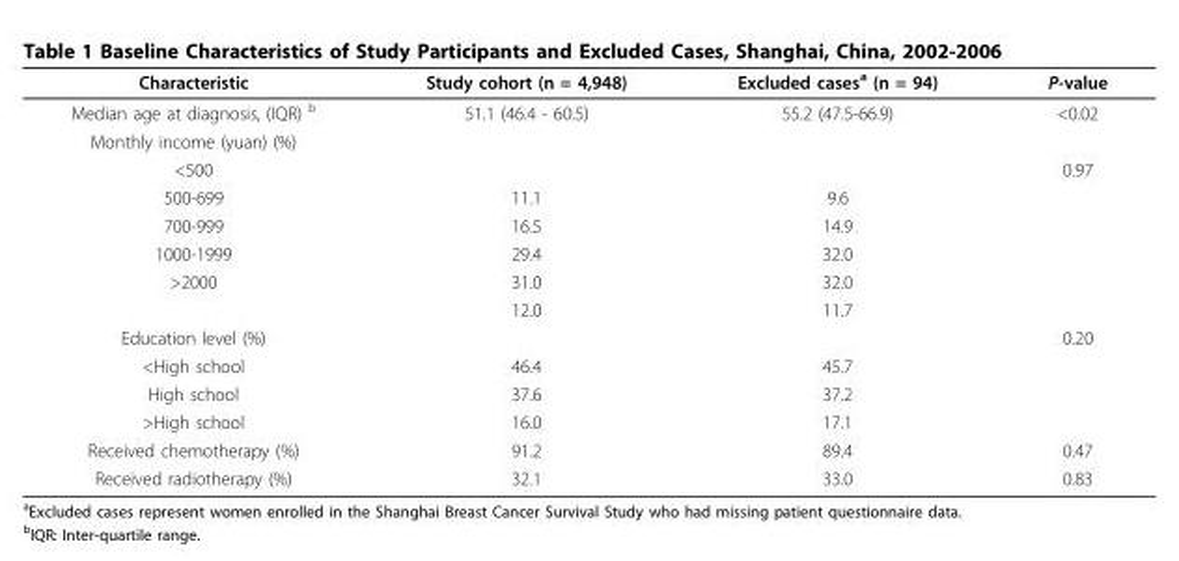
<table><thead><tr><td>Characteristic</td><td>Study cohort (n = 4,948)</td><td>Excluded cases<sup>a</sup> (n = 94)</td><td>P-value</td></tr></thead><tbody><tr><td>Median age at diagnosis, (IQR) <sup>b</sup></td><td>51.1 (46.4 - 60.5)</td><td>55.2 (47.5-66.9)</td><td>&lt;0.02</td></tr><tr><td colspan="4">Monthly income (yuan) (%)</td></tr><tr><td>&lt;500</td><td></td><td></td><td>0.97</td></tr><tr><td>500-699</td><td>11.1</td><td>9.6</td><td></td></tr><tr><td>700-999</td><td>16.5</td><td>14.9</td><td></td></tr><tr><td>1000-1999</td><td>29.4</td><td>32.0</td><td></td></tr><tr><td rowspan="2">&gt;2000</td><td>31.0</td><td>32.0</td><td></td></tr><tr><td>12.0</td><td>11.7</td><td></td></tr><tr><td>Education level (%)</td><td></td><td></td><td>0.20</td></tr><tr><td>&lt;High school</td><td>46.4</td><td>45.7</td><td></td></tr><tr><td>High school</td><td>37.6</td><td>37.2</td><td></td></tr><tr><td>&gt;High school</td><td>16.0</td><td>17.1</td><td></td></tr><tr><td>Received chemotherapy (%)</td><td>91.2</td><td>89.4</td><td>0.47</td></tr><tr><td>Received radiotherapy (%)</td><td>32.1</td><td>33.0</td><td>0.83</td></tr></tbody></table>